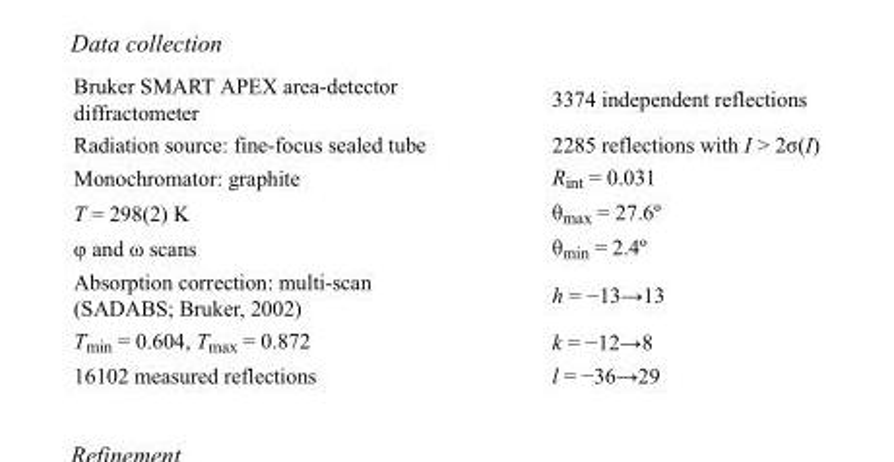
<table><tbody><tr><td>Bruker SMART APEX area-detector diffractometer</td><td>3374 independent reflections</td></tr><tr><td>Radiation source: fine-focus sealed tube</td><td>2285 reflections with I &gt; 2σ(I)</td></tr><tr><td>Monochromator: graphite</td><td>R<sub>int</sub> = 0.031</td></tr><tr><td>T = 298(2) K</td><td>θ<sub>max</sub> = 27.6º</td></tr><tr><td>φ and ω scans</td><td>θ<sub>min</sub> = 2.4º</td></tr><tr><td>Absorption correction: multi-scan (SADABS; Bruker, 2002)</td><td>h = −13→13</td></tr><tr><td>T<sub>min</sub> = 0.604, T<sub>max</sub> = 0.872</td><td>k = −12→8</td></tr><tr><td>16102 measured reflections</td><td>l = −36→29</td></tr></tbody></table>